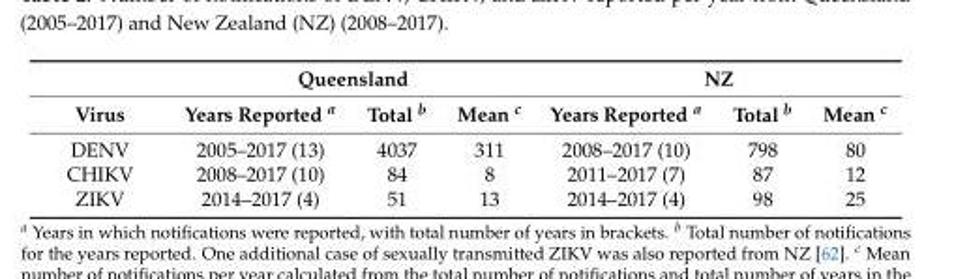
<table><thead><tr><td rowspan="2">Virus</td><td colspan="3">Queensland</td><td colspan="3">NZ</td></tr><tr><td>Years Reported <sup>a</sup></td><td>Total <sup>b</sup></td><td>Mean <sup>c</sup></td><td>Years Reported <sup>a</sup></td><td>Total <sup>b</sup></td><td>Mean <sup>c</sup></td></tr></thead><tbody><tr><td>DENV</td><td>2005–2017 (13)</td><td>4037</td><td>311</td><td>2008–2017 (10)</td><td>798</td><td>80</td></tr><tr><td>CHIKV</td><td>2008–2017 (10)</td><td>84</td><td>8</td><td>2011–2017 (7)</td><td>87</td><td>12</td></tr><tr><td>ZIKV</td><td>2014–2017 (4)</td><td>51</td><td>13</td><td>2014–2017 (4)</td><td>98</td><td>25</td></tr></tbody></table>